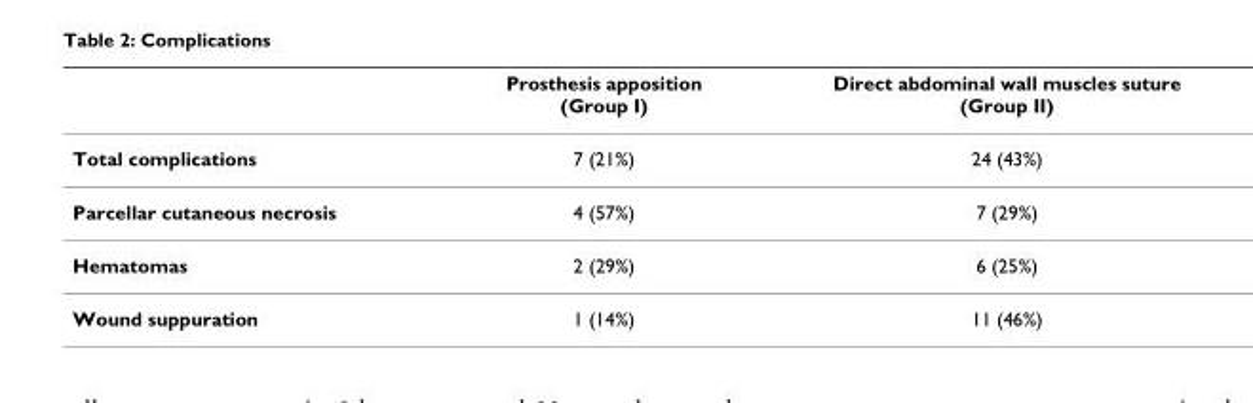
<table><thead><tr><td></td><td>Prosthesis apposition (Group I)</td><td>Direct abdominal wall muscles suture (Group II)</td></tr></thead><tbody><tr><td>Total complications</td><td>7 (21%)</td><td>24 (43%)</td></tr><tr><td>Parcellar cutaneous necrosis</td><td>4 (57%)</td><td>7 (29%)</td></tr><tr><td>Hematomas</td><td>2 (29%)</td><td>6 (25%)</td></tr><tr><td>Wound suppuration</td><td>1 (14%)</td><td>11 (46%)</td></tr></tbody></table>